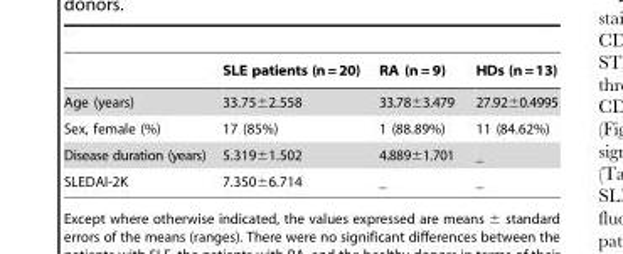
<table><thead><tr><td></td><td>SLE patients (n=20)</td><td>RA (n = 9)</td><td>HDs (n=13)</td></tr></thead><tbody><tr><td>Age (years)</td><td>33.75±2.558</td><td>33.78±3.479</td><td>27.92±0.4995</td></tr><tr><td>Sex, female (%)</td><td>17 (85%)</td><td>1 (88.89%)</td><td>11 (84.62%)</td></tr><tr><td>Disease duration (years)</td><td>5.319±1.502</td><td>4.889±1.701</td><td>_</td></tr><tr><td>SLEDAI-2K</td><td>7.350±6.714</td><td>_</td><td>_</td></tr></tbody></table>